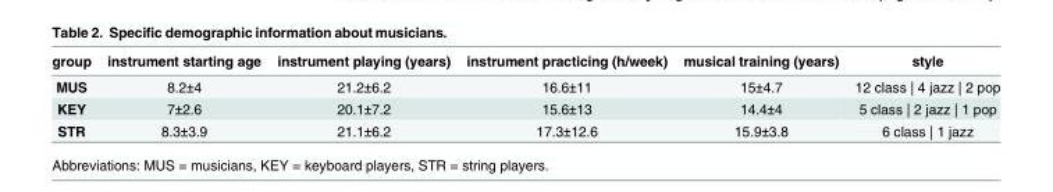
<table><thead><tr><td>group</td><td>instrument starting age</td><td>instrument playing (years)</td><td>instrument practicing (h/week)</td><td>musical training (years)</td><td>style</td></tr></thead><tbody><tr><td>MUS</td><td>8.2±4</td><td>21.2±6.2</td><td>16.6±11</td><td>15±4.7</td><td>12 class | 4 jazz | 2 pop</td></tr><tr><td>KEY</td><td>7±2.6</td><td>20.1±7.2</td><td>15.6±13</td><td>14.4±4</td><td>5 class | 2 jazz | 1 pop</td></tr><tr><td>STR</td><td>8.3±3.9</td><td>21.1±6.2</td><td>17.3±12.6</td><td>15.9±3.8</td><td>6 class | 1 jazz</td></tr></tbody></table>